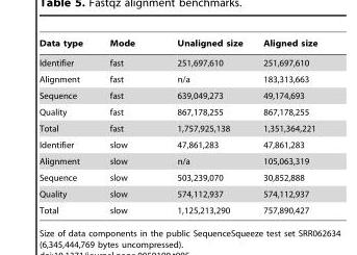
<table><thead><tr><td>Data type</td><td>Mode</td><td>Unaligned size</td><td>Aligned size</td></tr></thead><tbody><tr><td>Identifier</td><td>fast</td><td>251,697,610</td><td>251,697,610</td></tr><tr><td>Alignment</td><td>fast</td><td>n/a</td><td>183,313,663</td></tr><tr><td>Sequence</td><td>fast</td><td>639,049,273</td><td>49,174,693</td></tr><tr><td>Quality</td><td>fast</td><td>867,178,255</td><td>867,178,255</td></tr><tr><td>Total</td><td>fast</td><td>1,757,925,138</td><td>1,351,364,221</td></tr><tr><td>Identifier</td><td>slow</td><td>47,861,283</td><td>47,861,283</td></tr><tr><td>Alignment</td><td>slow</td><td>n/a</td><td>105,063,319</td></tr><tr><td>Sequence</td><td>slow</td><td>503,239,070</td><td>30,852,888</td></tr><tr><td>Quality</td><td>slow</td><td>574,112,937</td><td>574,112,937</td></tr><tr><td>Total</td><td>slow</td><td>1,125,213,290</td><td>757,890,427</td></tr></tbody></table>